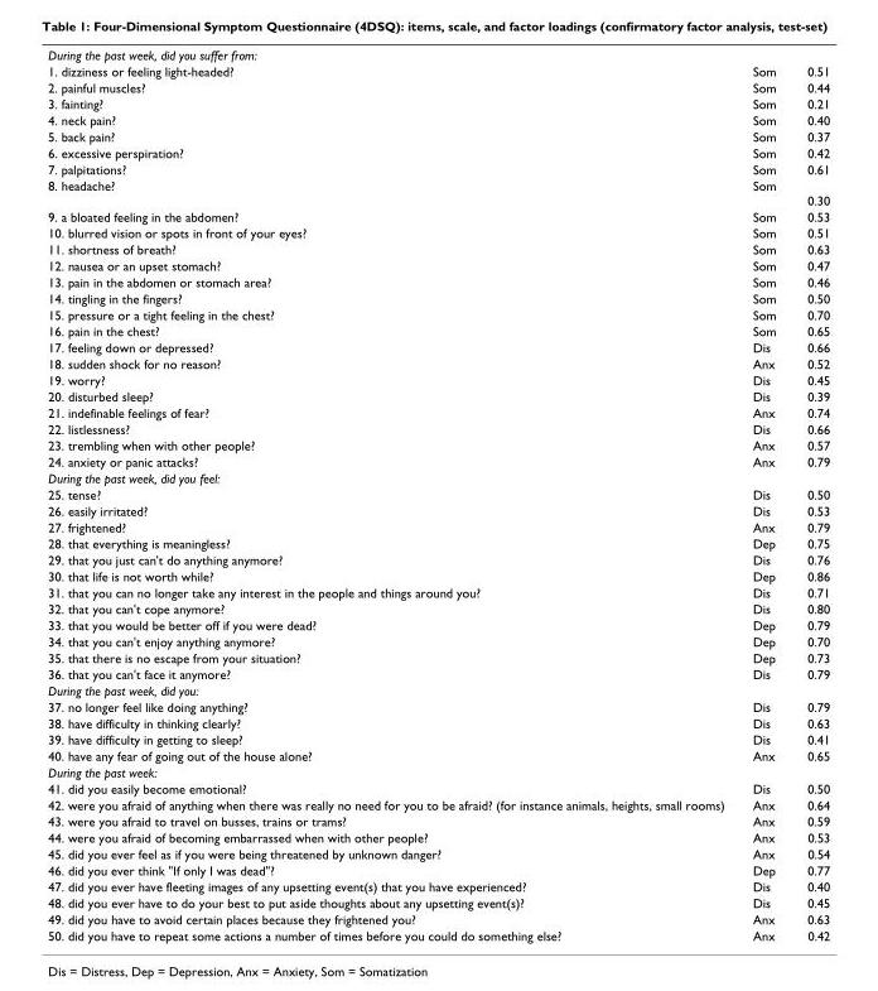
<table><tbody><tr><td colspan="3">During the past week, did you suffer from:</td></tr><tr><td>1. dizziness or feeling light-headed?</td><td>Som</td><td>0.51</td></tr><tr><td>2. painful muscles?</td><td>Som</td><td>0.44</td></tr><tr><td>3. fainting?</td><td>Som</td><td>0.21</td></tr><tr><td>4. neck pain?</td><td>Som</td><td>0.40</td></tr><tr><td>5. back pain?</td><td>Som</td><td>0.37</td></tr><tr><td>6. excessive perspiration?</td><td>Som</td><td>0.42</td></tr><tr><td>7. palpitations?</td><td>Som</td><td>0.61</td></tr><tr><td>8. headache?</td><td>Som</td><td>0.30</td></tr><tr><td>9. a bloated feeling in the abdomen?</td><td>Som</td><td>0.53</td></tr><tr><td>10. blurred vision or spots in front of your eyes?</td><td>Som</td><td>0.51</td></tr><tr><td>11. shortness of breath?</td><td>Som</td><td>0.63</td></tr><tr><td>12. nausea or an upset stomach?</td><td>Som</td><td>0.47</td></tr><tr><td>13. pain in the abdomen or stomach area?</td><td>Som</td><td>0.46</td></tr><tr><td>14. tingling in the fingers?</td><td>Som</td><td>0.50</td></tr><tr><td>15. pressure or a tight feeling in the chest?</td><td>Som</td><td>0.70</td></tr><tr><td>16. pain in the chest?</td><td>Som</td><td>0.65</td></tr><tr><td>17. feeling down or depressed?</td><td>Dis</td><td>0.66</td></tr><tr><td>18. sudden shock for no reason?</td><td>Anx</td><td>0.52</td></tr><tr><td>19. worry?</td><td>Dis</td><td>0.45</td></tr><tr><td>20. disturbed sleep?</td><td>Dis</td><td>0.39</td></tr><tr><td>21. indefinable feelings of fear?</td><td>Anx</td><td>0.74</td></tr><tr><td>22. listlessness?</td><td>Dis</td><td>0.66</td></tr><tr><td>23. trembling when with other people?</td><td>Anx</td><td>0.57</td></tr><tr><td>24. anxiety or panic attacks?</td><td>Anx</td><td>0.79</td></tr><tr><td colspan="3">During the past week, did you feel:</td></tr><tr><td>25. tense?</td><td>Dis</td><td>0.50</td></tr><tr><td>26. easily irritated?</td><td>Dis</td><td>0.53</td></tr><tr><td>27. frightened?</td><td>Anx</td><td>0.79</td></tr><tr><td>28. that everything is meaningless?</td><td>Dep</td><td>0.75</td></tr><tr><td>29. that you just can&#x27;t do anything anymore?</td><td>Dis</td><td>0.76</td></tr><tr><td>30. that life is not worth while?</td><td>Dep</td><td>0.86</td></tr><tr><td>31. that you can no longer take any interest in the people and things around you?</td><td>Dis</td><td>0.71</td></tr><tr><td>32. that you can&#x27;t cope anymore?</td><td>Dis</td><td>0.80</td></tr><tr><td>33. that you would be better off if you were dead?</td><td>Dep</td><td>0.79</td></tr><tr><td>34. that you can&#x27;t enjoy anything anymore?</td><td>Dep</td><td>0.70</td></tr><tr><td>35. that there is no escape from your situation?</td><td>Dep</td><td>0.73</td></tr><tr><td>36. that you can&#x27;t face it anymore?</td><td>Dis</td><td>0.79</td></tr><tr><td colspan="3">During the past week, did you:</td></tr><tr><td>37. no longer feel like doing anything?</td><td>Dis</td><td>0.79</td></tr><tr><td>38. have difficulty in thinking clearly?</td><td>Dis</td><td>0.63</td></tr><tr><td>39. have difficulty in getting to sleep?</td><td>Dis</td><td>0.41</td></tr><tr><td>40. have any fear of going out of the house alone?</td><td>Anx</td><td>0.65</td></tr><tr><td colspan="3">During the past week:</td></tr><tr><td>41. did you easily become emotional?</td><td>Dis</td><td>0.50</td></tr><tr><td>42. were you afraid of anything when there was really no need for you to be afraid? (for instance animals, heights, small rooms)</td><td>Anx</td><td>0.64</td></tr><tr><td>43. were you afraid to travel on busses, trains or trams?</td><td>Anx</td><td>0.59</td></tr><tr><td>44. were you afraid of becoming embarrassed when with other people?</td><td>Anx</td><td>0.53</td></tr><tr><td>45. did you ever feel as if you were being threatened by unknown danger?</td><td>Anx</td><td>0.54</td></tr><tr><td>46. did you ever think &quot;If only I was dead&quot;?</td><td>Dep</td><td>0.77</td></tr><tr><td>47. did you ever have fleeting images of any upsetting event(s) that you have experienced?</td><td>Dis</td><td>0.40</td></tr><tr><td>48. did you ever have to do your best to put aside thoughts about any upsetting event(s)?</td><td>Dis</td><td>0.45</td></tr><tr><td>49. did you have to avoid certain places because they frightened you?</td><td>Anx</td><td>0.63</td></tr><tr><td>50. did you have to repeat some actions a number of times before you could do something else?</td><td>Anx</td><td>0.42</td></tr></tbody></table>